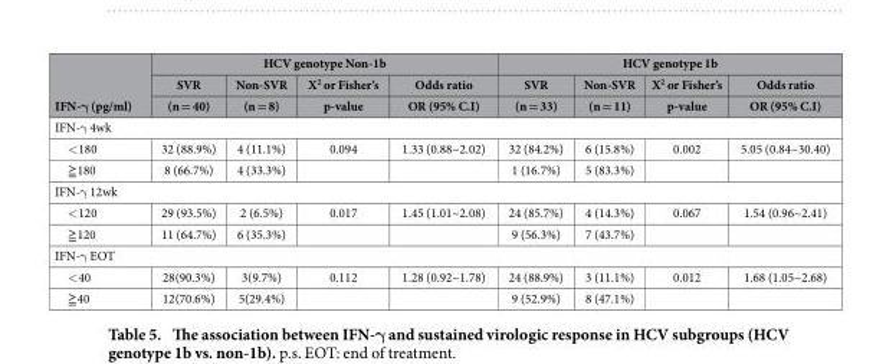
<table><thead><tr><td rowspan="3">IFN-γ (pg/ml)</td><td colspan="4">HCV genotype Non-1b</td><td colspan="4">HCV genotype 1b</td></tr><tr><td rowspan="2">SVR (n = 40)</td><td rowspan="2">Non-SVR (n = 8)</td><td rowspan="2">X<sup>2</sup> or Fisher’s p-value</td><td rowspan="2">Odds ratio OR (95% C.I)</td><td rowspan="2">SVR (n = 33)</td><td rowspan="2">Non-SVR (n = 11)</td><td rowspan="2">X<sup>2</sup> or Fisher’s p-value</td><td rowspan="2">Odds ratio OR (95% C.I)</td></tr><tr></tr></thead><tbody><tr><td colspan="9">IFN-γ 4wk</td></tr><tr><td>&lt; 180</td><td>32 (88.9%)</td><td>4 (11.1%)</td><td>0.094</td><td>1.33 (0.88~2.02)</td><td>32 (84.2%)</td><td>6 (15.8%)</td><td>0.002</td><td>5.05 (0.84~30.40)</td></tr><tr><td>≧ 180</td><td>8 (66.7%)</td><td>4 (33.3%)</td><td></td><td></td><td>1 (16.7%)</td><td>5 (83.3%)</td><td></td><td></td></tr><tr><td colspan="9">IFN-γ 12wk</td></tr><tr><td>&lt; 120</td><td>29 (93.5%)</td><td>2 (6.5%)</td><td>0.017</td><td>1.45 (1.01~2.08)</td><td>24 (85.7%)</td><td>4 (14.3%)</td><td>0.067</td><td>1.54 (0.96~2.41)</td></tr><tr><td>≧ 120</td><td>11 (64.7%)</td><td>6 (35.3%)</td><td></td><td></td><td>9 (56.3%)</td><td>7 (43.7%)</td><td></td><td></td></tr><tr><td colspan="9">IFN-γ EOT</td></tr><tr><td>&lt; 40</td><td>28(90.3%)</td><td>3(9.7%)</td><td>0.112</td><td>1.28 (0.92~1.78)</td><td>24 (88.9%)</td><td>3 (11.1%)</td><td>0.012</td><td>1.68 (1.05~2.68)</td></tr><tr><td>≧ 40</td><td>12(70.6%)</td><td>5(29.4%)</td><td></td><td></td><td>9 (52.9%)</td><td>8 (47.1%)</td><td></td><td></td></tr></tbody></table>